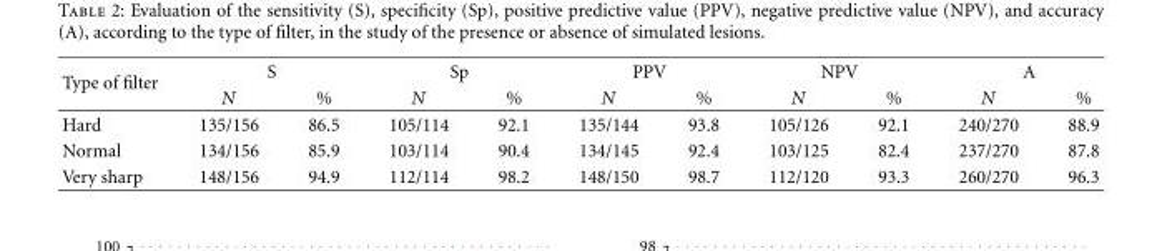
<table><thead><tr><td rowspan="2">Type of filter</td><td colspan="2">S</td><td colspan="2">Sp</td><td colspan="2">PPV</td><td colspan="2">NPV</td><td colspan="2">A</td></tr><tr><td>N</td><td>%</td><td>N</td><td>%</td><td>N</td><td>%</td><td>N</td><td>%</td><td>N</td><td>%</td></tr></thead><tbody><tr><td>Hard</td><td>135/156</td><td>86.5</td><td>105/114</td><td>92.1</td><td>135/144</td><td>93.8</td><td>105/126</td><td>92.1</td><td>240/270</td><td>88.9</td></tr><tr><td>Normal</td><td>134/156</td><td>85.9</td><td>103/114</td><td>90.4</td><td>134/145</td><td>92.4</td><td>103/125</td><td>82.4</td><td>237/270</td><td>87.8</td></tr><tr><td>Very sharp</td><td>148/156</td><td>94.9</td><td>112/114</td><td>98.2</td><td>148/150</td><td>98.7</td><td>112/120</td><td>93.3</td><td>260/270</td><td>96.3</td></tr></tbody></table>